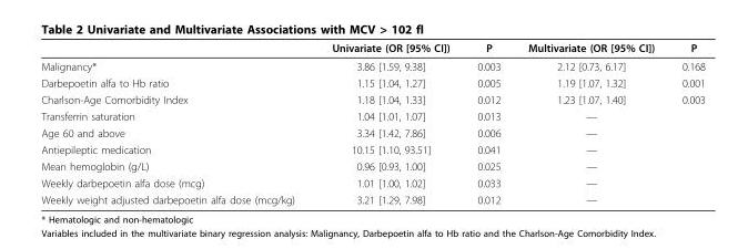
<table><thead><tr><td></td><td>Univariate (OR [95% CI])</td><td>P</td><td>Multivariate (OR [95% CI])</td><td>P</td></tr></thead><tbody><tr><td>Malignancy*</td><td>3.86 [1.59, 9.38]</td><td>0.003</td><td>2.12 [0.73, 6.17]</td><td>0.168</td></tr><tr><td>Darbepoetin alfa to Hb ratio</td><td>1.15 [1.04, 1.27]</td><td>0.005</td><td>1.19 [1.07, 1.32]</td><td>0.001</td></tr><tr><td>Charlson-Age Comorbidity Index</td><td>1.18 [1.04, 1.33]</td><td>0.012</td><td>1.23 [1.07, 1.40]</td><td>0.003</td></tr><tr><td>Transferrin saturation</td><td>1.04 [1.01, 1.07]</td><td>0.013</td><td>—</td><td></td></tr><tr><td>Age 60 and above</td><td>3.34 [1.42, 7.86]</td><td>0.006</td><td>—</td><td></td></tr><tr><td>Antiepileptic medication</td><td>10.15 [1.10, 93.51]</td><td>0.041</td><td>—</td><td></td></tr><tr><td>Mean hemoglobin (g/L)</td><td>0.96 [0.93, 1.00]</td><td>0.025</td><td>—</td><td></td></tr><tr><td>Weekly darbepoetin alfa dose (mcg)</td><td>1.01 [1.00, 1.02]</td><td>0.033</td><td>—</td><td></td></tr><tr><td>Weekly weight adjusted darbepoetin alfa dose (mcg/kg)</td><td>3.21 [1.29, 7.98]</td><td>0.012</td><td>—</td><td></td></tr></tbody></table>